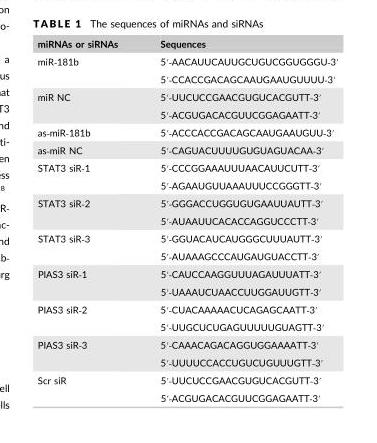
<table><thead><tr><td>miRNAs or siRNAs</td><td>Sequences</td></tr></thead><tbody><tr><td rowspan="2">miR‐181b</td><td>5′‐AACAUUCAUUGCUGUCGGUGGGU‐3′</td></tr><tr><td>5′‐CCACCGACAGCAAUGAAUGUUUU‐3′</td></tr><tr><td rowspan="2">miR NC</td><td>5′‐UUCUCCGAACGUGUCACGUTT‐3′</td></tr><tr><td>5′‐ACGUGACACGUUCGGAGAATT‐3′</td></tr><tr><td>as‐miR‐181b</td><td>5′‐ACCCACCGACAGCAAUGAAUGUU‐3′</td></tr><tr><td>as‐miR NC</td><td>5′‐CAGUACUUUUGUGUAGUACAA‐3′</td></tr><tr><td rowspan="2">STAT3 siR‐1</td><td>5′‐CCCGGAAAUUUAACAUUCUTT‐3′</td></tr><tr><td>5′‐AGAAUGUUAAAUUUCCGGGTT‐3′</td></tr><tr><td rowspan="2">STAT3 siR‐2</td><td>5′‐GGGACCUGGUGUGAAUUAUTT‐3′</td></tr><tr><td>5′‐AUAAUUCACACCAGGUCCCTT‐3′</td></tr><tr><td rowspan="2">STAT3 siR‐3</td><td>5′‐GGUACAUCAUGGGCUUUAUTT‐3′</td></tr><tr><td>5′‐AUAAAGCCCAUGAUGUACCTT‐3′</td></tr><tr><td rowspan="2">PIAS3 siR‐1</td><td>5′‐CAUCCAAGGUUUAGAUUUATT‐3′</td></tr><tr><td>5′‐UAAAUCUAACCUUGGAUUGTT‐3′</td></tr><tr><td rowspan="2">PIAS3 siR‐2</td><td>5′‐CUACAAAAACUCAGAGCAATT‐3′</td></tr><tr><td>5′‐UUGCUCUGAGUUUUUGUAGTT‐3′</td></tr><tr><td rowspan="2">PIAS3 siR‐3</td><td>5′‐CAAACAGACAGGUGGAAAATT‐3′</td></tr><tr><td>5′‐UUUUCCACCUGUCUGUUUGTT‐3′</td></tr><tr><td rowspan="2">Scr siR</td><td>5′‐UUCUCCGAACGUGUCACGUTT‐3′</td></tr><tr><td>5′‐ACGUGACACGUUCGGAGAATT‐3′</td></tr></tbody></table>